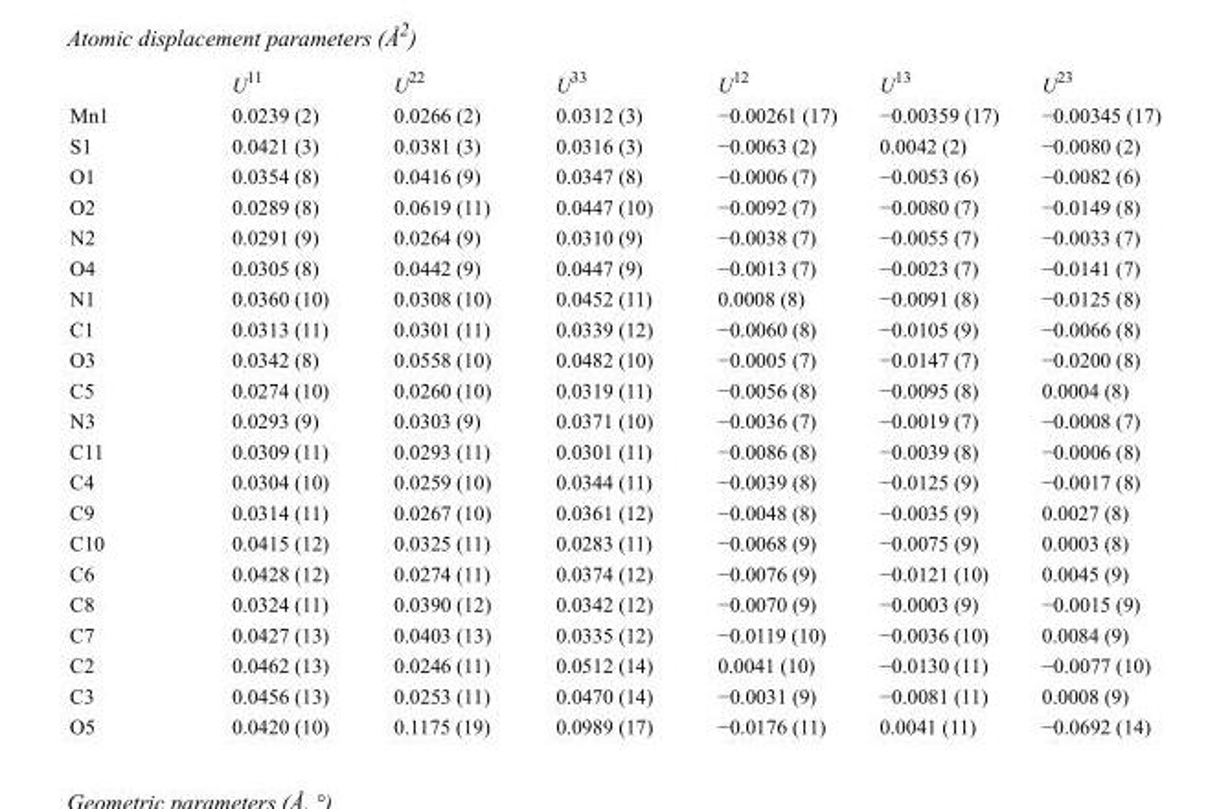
<table><thead><tr><td></td><td>U<sup>11</sup></td><td>U<sup>22</sup></td><td>U<sup>33</sup></td><td>U<sup>12</sup></td><td>U<sup>13</sup></td><td>U<sup>23</sup></td></tr></thead><tbody><tr><td>Mn1</td><td>0.0239 (2)</td><td>0.0266 (2)</td><td>0.0312 (3)</td><td>−0.00261 (17)</td><td>−0.00359 (17)</td><td>−0.00345 (17)</td></tr><tr><td>S1</td><td>0.0421 (3)</td><td>0.0381 (3)</td><td>0.0316 (3)</td><td>−0.0063 (2)</td><td>0.0042 (2)</td><td>−0.0080 (2)</td></tr><tr><td>O1</td><td>0.0354 (8)</td><td>0.0416 (9)</td><td>0.0347 (8)</td><td>−0.0006 (7)</td><td>−0.0053 (6)</td><td>−0.0082 (6)</td></tr><tr><td>O2</td><td>0.0289 (8)</td><td>0.0619 (11)</td><td>0.0447 (10)</td><td>−0.0092 (7)</td><td>−0.0080 (7)</td><td>−0.0149 (8)</td></tr><tr><td>N2</td><td>0.0291 (9)</td><td>0.0264 (9)</td><td>0.0310 (9)</td><td>−0.0038 (7)</td><td>−0.0055 (7)</td><td>−0.0033 (7)</td></tr><tr><td>O4</td><td>0.0305 (8)</td><td>0.0442 (9)</td><td>0.0447 (9)</td><td>−0.0013 (7)</td><td>−0.0023 (7)</td><td>−0.0141 (7)</td></tr><tr><td>N1</td><td>0.0360 (10)</td><td>0.0308 (10)</td><td>0.0452 (11)</td><td>0.0008 (8)</td><td>−0.0091 (8)</td><td>−0.0125 (8)</td></tr><tr><td>C1</td><td>0.0313 (11)</td><td>0.0301 (11)</td><td>0.0339 (12)</td><td>−0.0060 (8)</td><td>−0.0105 (9)</td><td>−0.0066 (8)</td></tr><tr><td>O3</td><td>0.0342 (8)</td><td>0.0558 (10)</td><td>0.0482 (10)</td><td>−0.0005 (7)</td><td>−0.0147 (7)</td><td>−0.0200 (8)</td></tr><tr><td>C5</td><td>0.0274 (10)</td><td>0.0260 (10)</td><td>0.0319 (11)</td><td>−0.0056 (8)</td><td>−0.0095 (8)</td><td>0.0004 (8)</td></tr><tr><td>N3</td><td>0.0293 (9)</td><td>0.0303 (9)</td><td>0.0371 (10)</td><td>−0.0036 (7)</td><td>−0.0019 (7)</td><td>−0.0008 (7)</td></tr><tr><td>C11</td><td>0.0309 (11)</td><td>0.0293 (11)</td><td>0.0301 (11)</td><td>−0.0086 (8)</td><td>−0.0039 (8)</td><td>−0.0006 (8)</td></tr><tr><td>C4</td><td>0.0304 (10)</td><td>0.0259 (10)</td><td>0.0344 (11)</td><td>−0.0039 (8)</td><td>−0.0125 (9)</td><td>−0.0017 (8)</td></tr><tr><td>C9</td><td>0.0314 (11)</td><td>0.0267 (10)</td><td>0.0361 (12)</td><td>−0.0048 (8)</td><td>−0.0035 (9)</td><td>0.0027 (8)</td></tr><tr><td>C10</td><td>0.0415 (12)</td><td>0.0325 (11)</td><td>0.0283 (11)</td><td>−0.0068 (9)</td><td>−0.0075 (9)</td><td>0.0003 (8)</td></tr><tr><td>C6</td><td>0.0428 (12)</td><td>0.0274 (11)</td><td>0.0374 (12)</td><td>−0.0076 (9)</td><td>−0.0121 (10)</td><td>0.0045 (9)</td></tr><tr><td>C8</td><td>0.0324 (11)</td><td>0.0390 (12)</td><td>0.0342 (12)</td><td>−0.0070 (9)</td><td>−0.0003 (9)</td><td>−0.0015 (9)</td></tr><tr><td>C7</td><td>0.0427 (13)</td><td>0.0403 (13)</td><td>0.0335 (12)</td><td>−0.0119 (10)</td><td>−0.0036 (10)</td><td>0.0084 (9)</td></tr><tr><td>C2</td><td>0.0462 (13)</td><td>0.0246 (11)</td><td>0.0512 (14)</td><td>0.0041 (10)</td><td>−0.0130 (11)</td><td>−0.0077 (10)</td></tr><tr><td>C3</td><td>0.0456 (13)</td><td>0.0253 (11)</td><td>0.0470 (14)</td><td>−0.0031 (9)</td><td>−0.0081 (11)</td><td>0.0008 (9)</td></tr><tr><td>O5</td><td>0.0420 (10)</td><td>0.1175 (19)</td><td>0.0989 (17)</td><td>−0.0176 (11)</td><td>0.0041 (11)</td><td>−0.0692 (14)</td></tr></tbody></table>